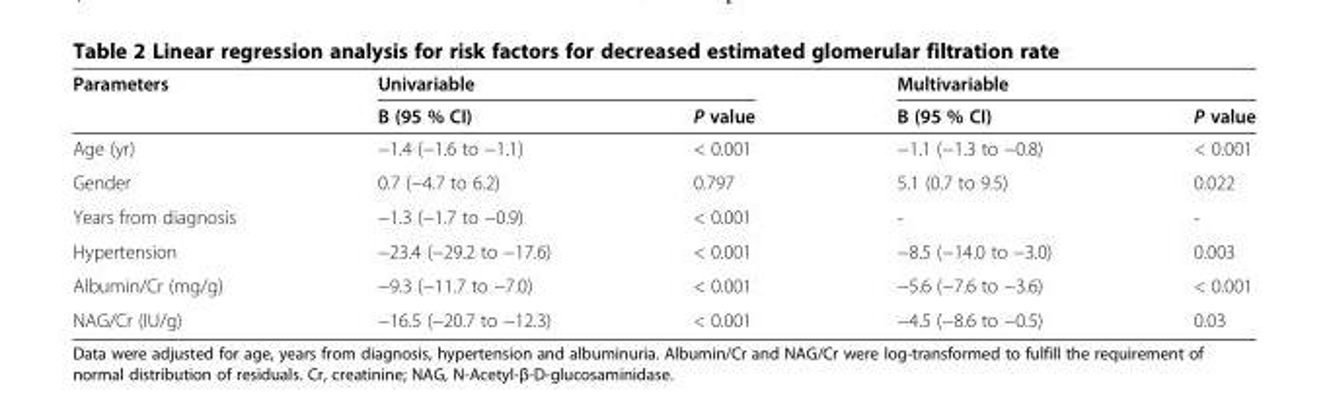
<table><thead><tr><td rowspan="2">Parameters</td><td colspan="2">Univariable</td><td colspan="2">Multivariable</td></tr><tr><td>B (95 % CI)</td><td>P value</td><td>B (95 % CI)</td><td>P value</td></tr></thead><tbody><tr><td>Age (yr)</td><td>−1.4 (−1.6 to −1.1)</td><td>&lt; 0.001</td><td>−1.1 (−1.3 to −0.8)</td><td>&lt; 0.001</td></tr><tr><td>Gender</td><td>0.7 (−4.7 to 6.2)</td><td>0.797</td><td>5.1 (0.7 to 9.5)</td><td>0.022</td></tr><tr><td>Years from diagnosis</td><td>−1.3 (−1.7 to −0.9)</td><td>&lt; 0.001</td><td>-</td><td>-</td></tr><tr><td>Hypertension</td><td>−23.4 (−29.2 to −17.6)</td><td>&lt; 0.001</td><td>−8.5 (−14.0 to −3.0)</td><td>0.003</td></tr><tr><td>Albumin/Cr (mg/g)</td><td>−9.3 (−11.7 to −7.0)</td><td>&lt; 0.001</td><td>−5.6 (−7.6 to −3.6)</td><td>&lt; 0.001</td></tr><tr><td>NAG/Cr (IU/g)</td><td>−16.5 (−20.7 to −12.3)</td><td>&lt; 0.001</td><td>−4.5 (−8.6 to −0.5)</td><td>0.03</td></tr></tbody></table>